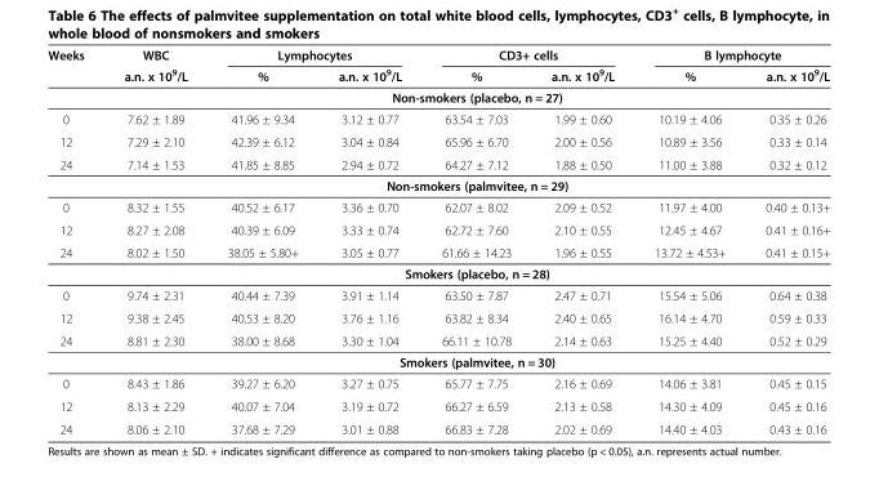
<table><thead><tr><td rowspan="2">Weeks</td><td rowspan="2">WBC a.n. x 10<sup>9</sup>/L</td><td colspan="2">Lymphocytes</td><td colspan="2">CD3+ cells</td><td colspan="2">B lymphocyte</td></tr><tr><td>%</td><td>a.n. x 10<sup>9</sup>/L</td><td>%</td><td>a.n. x 10<sup>9</sup>/L</td><td>%</td><td>a.n. x 10<sup>9</sup>/L</td></tr></thead><tbody><tr><td></td><td colspan="7">Non-smokers (placebo, n = 27)</td></tr><tr><td>0</td><td>7.62 ± 1.89</td><td>41.96 ± 9.34</td><td>3.12 ± 0.77</td><td>63.54 ± 7.03</td><td>1.99 ± 0.60</td><td>10.19 ± 4.06</td><td>0.35 ± 0.26</td></tr><tr><td>12</td><td>7.29 ± 2.10</td><td>42.39 ± 6.12</td><td>3.04 ± 0.84</td><td>65.96 ± 6.70</td><td>2.00 ± 0.56</td><td>10.89 ± 3.56</td><td>0.33 ± 0.14</td></tr><tr><td rowspan="2">24</td><td>7.14 ± 1.53</td><td>41.85 ± 8.85</td><td>2.94 ± 0.72</td><td>64.27 ± 7.12</td><td>1.88 ± 0.50</td><td>11.00 ± 3.88</td><td>0.32 ± 0.12</td></tr><tr><td colspan="7">Non-smokers (palmvitee, n = 29)</td></tr><tr><td>0</td><td>8.32 ± 1.55</td><td>40.52 ± 6.17</td><td>3.36 ± 0.70</td><td>62.07 ± 8.02</td><td>2.09 ± 0.52</td><td>11.97 ± 4.00</td><td>0.40 ± 0.13+</td></tr><tr><td>12</td><td>8.27 ± 2.08</td><td>40.39 ± 6.09</td><td>3.33 ± 0.74</td><td>62.72 ± 7.60</td><td>2.10 ± 0.55</td><td>12.45 ± 4.67</td><td>0.41 ± 0.16+</td></tr><tr><td rowspan="2">24</td><td>8.02 ± 1.50</td><td>38.05 ± 5.80+</td><td>3.05 ± 0.77</td><td>61.66 ± 14.23</td><td>1.96 ± 0.55</td><td>13.72 ± 4.53+</td><td>0.41 ± 0.15+</td></tr><tr><td colspan="7">Smokers (placebo, n = 28)</td></tr><tr><td>0</td><td>9.74 ± 2.31</td><td>40.44 ± 7.39</td><td>3.91 ± 1.14</td><td>63.50 ± 7.87</td><td>2.47 ± 0.71</td><td>15.54 ± 5.06</td><td>0.64 ± 0.38</td></tr><tr><td>12</td><td>9.38 ± 2.45</td><td>40.53 ± 8.20</td><td>3.76 ± 1.16</td><td>63.82 ± 8.34</td><td>2.40 ± 0.65</td><td>16.14 ± 4.70</td><td>0.59 ± 0.33</td></tr><tr><td rowspan="2">24</td><td>8.81 ± 2.30</td><td>38.00 ± 8.68</td><td>3.30 ± 1.04</td><td>66.11 ± 10.78</td><td>2.14 ± 0.63</td><td>15.25 ± 4.40</td><td>0.52 ± 0.29</td></tr><tr><td colspan="7">Smokers (palmvitee, n = 30)</td></tr><tr><td>0</td><td>8.43 ± 1.86</td><td>39.27 ± 6.20</td><td>3.27 ± 0.75</td><td>65.77 ± 7.75</td><td>2.16 ± 0.69</td><td>14.06 ± 3.81</td><td>0.45 ± 0.15</td></tr><tr><td>12</td><td>8.13 ± 2.29</td><td>40.07 ± 7.04</td><td>3.19 ± 0.72</td><td>66.27 ± 6.59</td><td>2.13 ± 0.58</td><td>14.30 ± 4.09</td><td>0.45 ± 0.16</td></tr><tr><td>24</td><td>8.06 ± 2.10</td><td>37.68 ± 7.29</td><td>3.01 ± 0.88</td><td>66.83 ± 7.28</td><td>2.02 ± 0.69</td><td>14.40 ± 4.03</td><td>0.43 ± 0.16</td></tr></tbody></table>